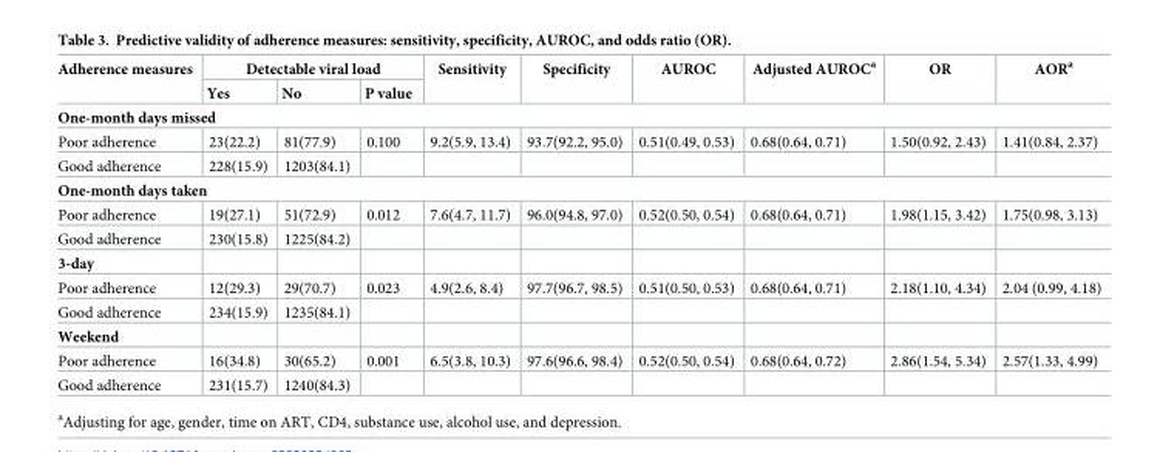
<table><thead><tr><td rowspan="2">Adherence measures</td><td colspan="3">Detectable viral load</td><td rowspan="2">Sensitivity</td><td rowspan="2">Specificity</td><td rowspan="2">AUROC</td><td rowspan="2">Adjusted AUROC<sup>a</sup></td><td rowspan="2">OR</td><td rowspan="2">AOR<sup>a</sup></td></tr><tr><td>Yes</td><td>No</td><td>P value</td></tr></thead><tbody><tr><td colspan="10">One-month days missed</td></tr><tr><td>Poor adherence</td><td>23(22.2)</td><td>81(77.9)</td><td>0.100</td><td>9.2(5.9, 13.4)</td><td>93.7(92.2, 95.0)</td><td>0.51(0.49, 0.53)</td><td>0.68(0.64, 0.71)</td><td>1.50(0.92, 2.43)</td><td>1.41(0.84, 2.37)</td></tr><tr><td>Good adherence</td><td>228(15.9)</td><td>1203(84.1)</td><td></td><td></td><td></td><td></td><td></td><td></td><td></td></tr><tr><td colspan="10">One-month days taken</td></tr><tr><td>Poor adherence</td><td>19(27.1)</td><td>51(72.9)</td><td>0.012</td><td>7.6(4.7, 11.7)</td><td>96.0(94.8, 97.0)</td><td>0.52(0.50, 0.54)</td><td>0.68(0.64, 0.71)</td><td>1.98(1.15, 3.42)</td><td>1.75(0.98, 3.13)</td></tr><tr><td>Good adherence</td><td>230(15.8)</td><td>1225(84.2)</td><td></td><td></td><td></td><td></td><td></td><td></td><td></td></tr><tr><td colspan="10">3-day</td></tr><tr><td>Poor adherence</td><td>12(29.3)</td><td>29(70.7)</td><td>0.023</td><td>4.9(2.6, 8.4)</td><td>97.7(96.7, 98.5)</td><td>0.51(0.50, 0.53)</td><td>0.68(0.64, 0.71)</td><td>2.18(1.10, 4.34)</td><td>2.04 (0.99, 4.18)</td></tr><tr><td>Good adherence</td><td>234(15.9)</td><td>1235(84.1)</td><td></td><td></td><td></td><td></td><td></td><td></td><td></td></tr><tr><td colspan="10">Weekend</td></tr><tr><td>Poor adherence</td><td>16(34.8)</td><td>30(65.2)</td><td>0.001</td><td>6.5(3.8, 10.3)</td><td>97.6(96.6, 98.4)</td><td>0.52(0.50, 0.54)</td><td>0.68(0.64, 0.72)</td><td>2.86(1.54, 5.34)</td><td>2.57(1.33, 4.99)</td></tr><tr><td>Good adherence</td><td>231(15.7)</td><td>1240(84.3)</td><td></td><td></td><td></td><td></td><td></td><td></td><td></td></tr></tbody></table>